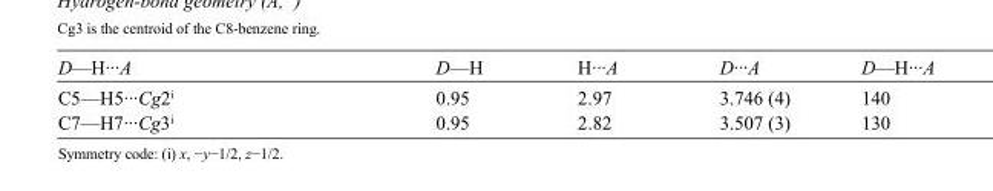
<table><tbody><tr><td>D—H···A</td><td>D—H</td><td>H···A</td><td>D···A</td><td>D—H···A</td></tr><tr><td>C5—H5···Cg2<sup>i</sup></td><td>0.95</td><td>2.97</td><td>3.746 (4)</td><td>140</td></tr><tr><td>C7—H7···Cg3<sup>i</sup></td><td>0.95</td><td>2.82</td><td>3.507 (3)</td><td>130</td></tr></tbody></table>